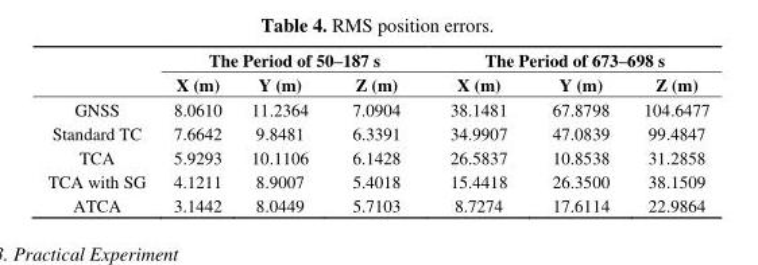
<table><thead><tr><td rowspan="2"></td><td colspan="3">The Period of 50–187 s</td><td colspan="3">The Period of 673–698 s</td></tr><tr><td>X (m)</td><td>Y (m)</td><td>Z (m)</td><td>X (m)</td><td>Y (m)</td><td>Z (m)</td></tr></thead><tbody><tr><td>GNSS</td><td>8.0610</td><td>11.2364</td><td>7.0904</td><td>38.1481</td><td>67.8798</td><td>104.6477</td></tr><tr><td>Standard TC</td><td>7.6642</td><td>9.8481</td><td>6.3391</td><td>34.9907</td><td>47.0839</td><td>99.4847</td></tr><tr><td>TCA</td><td>5.9293</td><td>10.1106</td><td>6.1428</td><td>26.5837</td><td>10.8538</td><td>31.2858</td></tr><tr><td>TCA with SG</td><td>4.1211</td><td>8.9007</td><td>5.4018</td><td>15.4418</td><td>26.3500</td><td>38.1509</td></tr><tr><td>ATCA</td><td>3.1442</td><td>8.0449</td><td>5.7103</td><td>8.7274</td><td>17.6114</td><td>22.9864</td></tr></tbody></table>